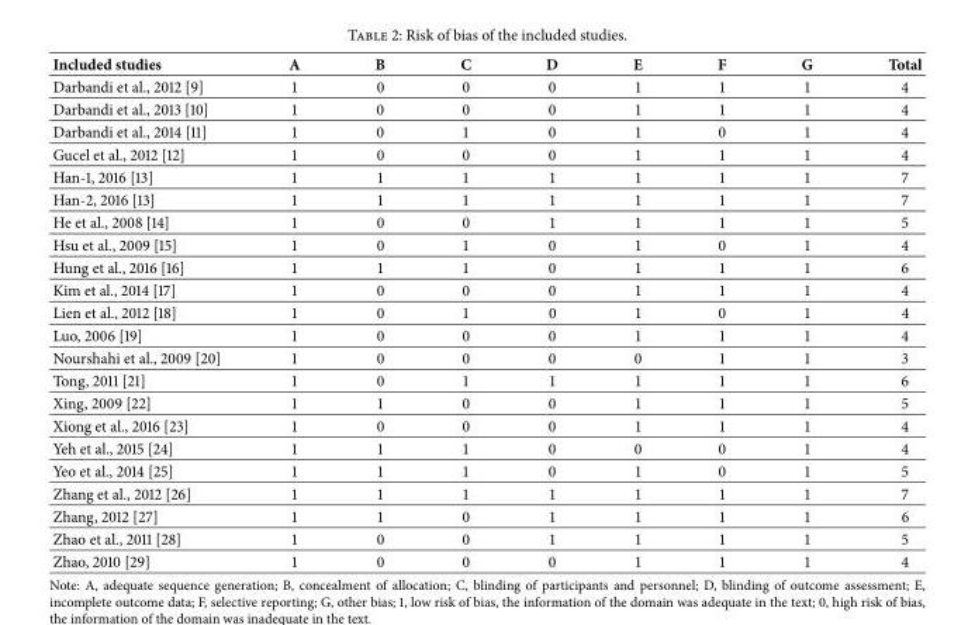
<table><tbody><tr><td>Included studies</td><td>A</td><td>B</td><td>C</td><td>D</td><td>E</td><td>F</td><td>G</td><td>Total</td></tr><tr><td>Darbandi et al., 2012 [9]</td><td>1</td><td>0</td><td>0</td><td>0</td><td>1</td><td>1</td><td>1</td><td>4</td></tr><tr><td>Darbandi et al., 2013 [10]</td><td>1</td><td>0</td><td>0</td><td>0</td><td>1</td><td>1</td><td>1</td><td>4</td></tr><tr><td>Darbandi et al., 2014 [11]</td><td>1</td><td>0</td><td>1</td><td>0</td><td>1</td><td>0</td><td>1</td><td>4</td></tr><tr><td>Gucel et al., 2012 [12]</td><td>1</td><td>0</td><td>0</td><td>0</td><td>1</td><td>1</td><td>1</td><td>4</td></tr><tr><td>Han-1, 2016 [13]</td><td>1</td><td>1</td><td>1</td><td>1</td><td>1</td><td>1</td><td>1</td><td>7</td></tr><tr><td>Han-2, 2016 [13]</td><td>1</td><td>1</td><td>1</td><td>1</td><td>1</td><td>1</td><td>1</td><td>7</td></tr><tr><td>He et al., 2008 [14]</td><td>1</td><td>0</td><td>0</td><td>1</td><td>1</td><td>1</td><td>1</td><td>5</td></tr><tr><td>Hsu et al., 2009 [15]</td><td>1</td><td>0</td><td>1</td><td>0</td><td>1</td><td>0</td><td>1</td><td>4</td></tr><tr><td>Hung et al., 2016 [16]</td><td>1</td><td>1</td><td>1</td><td>0</td><td>1</td><td>1</td><td>1</td><td>6</td></tr><tr><td>Kim et al., 2014 [17]</td><td>1</td><td>0</td><td>0</td><td>0</td><td>1</td><td>1</td><td>1</td><td>4</td></tr><tr><td>Lien et al., 2012 [18]</td><td>1</td><td>0</td><td>1</td><td>0</td><td>1</td><td>0</td><td>1</td><td>4</td></tr><tr><td>Luo, 2006 [19]</td><td>1</td><td>0</td><td>0</td><td>0</td><td>1</td><td>1</td><td>1</td><td>4</td></tr><tr><td>Nourshahi et al., 2009 [20]</td><td>1</td><td>0</td><td>0</td><td>0</td><td>0</td><td>1</td><td>1</td><td>3</td></tr><tr><td>Tong, 2011 [21]</td><td>1</td><td>0</td><td>1</td><td>1</td><td>1</td><td>1</td><td>1</td><td>6</td></tr><tr><td>Xing, 2009 [22]</td><td>1</td><td>1</td><td>0</td><td>0</td><td>1</td><td>1</td><td>1</td><td>5</td></tr><tr><td>Xiong et al., 2016 [23]</td><td>1</td><td>0</td><td>0</td><td>0</td><td>1</td><td>1</td><td>1</td><td>4</td></tr><tr><td>Yeh et al., 2015 [24]</td><td>1</td><td>1</td><td>1</td><td>0</td><td>0</td><td>0</td><td>1</td><td>4</td></tr><tr><td>Yeo et al., 2014 [25]</td><td>1</td><td>1</td><td>1</td><td>0</td><td>1</td><td>0</td><td>1</td><td>5</td></tr><tr><td>Zhang et al., 2012 [26]</td><td>1</td><td>1</td><td>1</td><td>1</td><td>1</td><td>1</td><td>1</td><td>7</td></tr><tr><td>Zhang, 2012 [27]</td><td>1</td><td>1</td><td>0</td><td>1</td><td>1</td><td>1</td><td>1</td><td>6</td></tr><tr><td>Zhao et al., 2011 [28]</td><td>1</td><td>0</td><td>0</td><td>1</td><td>1</td><td>1</td><td>1</td><td>5</td></tr><tr><td>Zhao, 2010 [29]</td><td>1</td><td>0</td><td>0</td><td>0</td><td>1</td><td>1</td><td>1</td><td>4</td></tr></tbody></table>